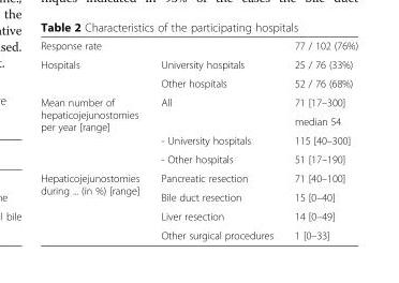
<table><tbody><tr><td>Response rate</td><td></td><td>77 / 102 (76%)</td></tr><tr><td rowspan="2">Hospitals</td><td>University hospitals</td><td>25 / 76 (33%)</td></tr><tr><td>Other hospitals</td><td>52 / 76 (68%)</td></tr><tr><td rowspan="4">Mean number of hepaticojejunostomies per year [range]</td><td rowspan="2">All</td><td>71 [17–300]</td></tr><tr><td>median 54</td></tr><tr><td>- University hospitals</td><td>115 [40–300]</td></tr><tr><td>- Other hospitals</td><td>51 [17–190]</td></tr><tr><td rowspan="4">Hepaticojejunostomies during ... (in %) [range]</td><td>Pancreatic resection</td><td>71 [40–100]</td></tr><tr><td>Bile duct resection</td><td>15 [0–40]</td></tr><tr><td>Liver resection</td><td>14 [0–49]</td></tr><tr><td>Other surgical procedures</td><td>1 [0–33]</td></tr></tbody></table>